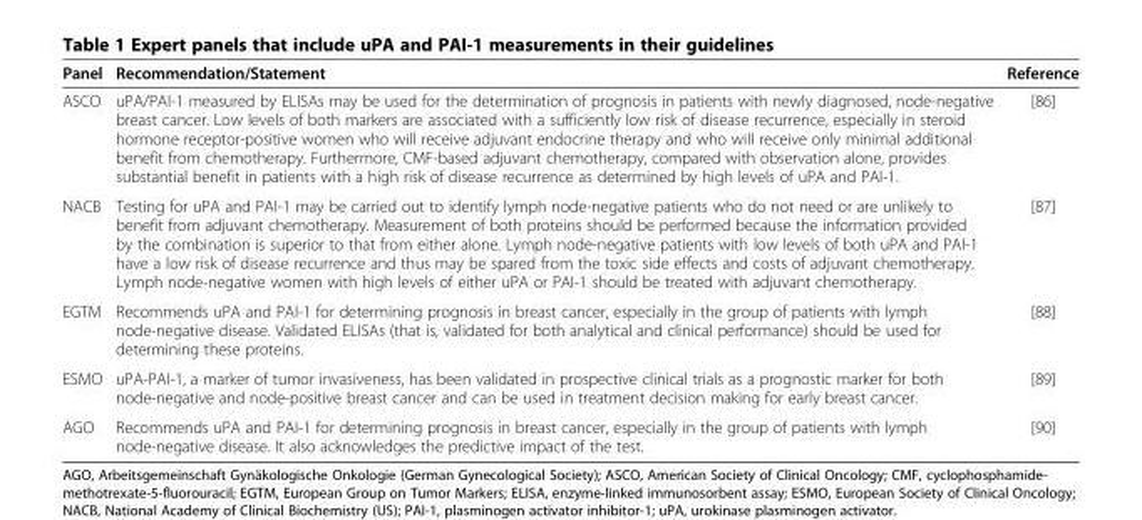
<table><thead><tr><td>Panel</td><td>Recommendation/Statement</td><td>Reference</td></tr></thead><tbody><tr><td>ASCO</td><td>uPA/PAI-1 measured by ELISAs may be used for the determination of prognosis in patients with newly diagnosed, node-negative breast cancer. Low levels of both markers are associated with a sufficiently low risk of disease recurrence, especially in steroid hormone receptor-positive women who will receive adjuvant endocrine therapy and who will receive only minimal additional benefit from chemotherapy. Furthermore, CMF-based adjuvant chemotherapy, compared with observation alone, provides substantial benefit in patients with a high risk of disease recurrence as determined by high levels of uPA and PAI-1.</td><td>[86]</td></tr><tr><td>NACB</td><td>Testing for uPA and PAI-1 may be carried out to identify lymph node-negative patients who do not need or are unlikely to benefit from adjuvant chemotherapy. Measurement of both proteins should be performed because the information provided by the combination is superior to that from either alone. Lymph node-negative patients with low levels of both uPA and PAI-1 have a low risk of disease recurrence and thus may be spared from the toxic side effects and costs of adjuvant chemotherapy. Lymph node-negative women with high levels of either uPA or PAI-1 should be treated with adjuvant chemotherapy.</td><td>[87]</td></tr><tr><td>EGTM</td><td>Recommends uPA and PAI-1 for determining prognosis in breast cancer, especially in the group of patients with lymph node-negative disease. Validated ELISAs (that is, validated for both analytical and clinical performance) should be used for determining these proteins.</td><td>[88]</td></tr><tr><td>ESMO</td><td>uPA-PAI-1, a marker of tumor invasiveness, has been validated in prospective clinical trials as a prognostic marker for both node-negative and node-positive breast cancer and can be used in treatment decision making for early breast cancer.</td><td>[89]</td></tr><tr><td>AGO</td><td>Recommends uPA and PAI-1 for determining prognosis in breast cancer, especially in the group of patients with lymph node-negative disease. It also acknowledges the predictive impact of the test.</td><td>[90]</td></tr></tbody></table>